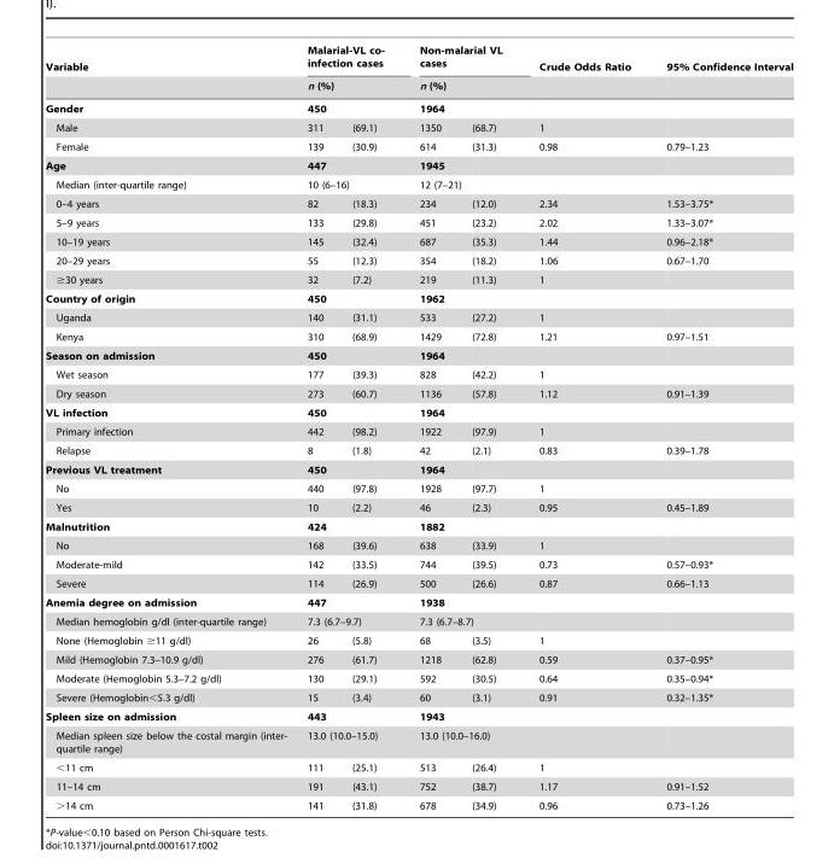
<table><thead><tr><td rowspan="3">Variable Gender</td><td rowspan="2" colspan="2">Malarial-VL co- infection cases n (%)</td><td rowspan="2" colspan="2">Non-malarial VL cases n (%)</td><td rowspan="3">Crude Odds Ratio</td><td rowspan="3">95% Confidence Interval</td></tr><tr></tr><tr><td>450</td><td></td><td>1964</td><td></td></tr></thead><tbody><tr><td>Male</td><td>311</td><td>(69.1)</td><td>1350</td><td>(68.7)</td><td>1</td><td></td></tr><tr><td>Female</td><td>139</td><td>(30.9)</td><td>614</td><td>(31.3)</td><td>0.98</td><td>0.79–1.23</td></tr><tr><td>Age</td><td>447</td><td></td><td>1945</td><td></td><td></td><td></td></tr><tr><td>Median (inter-quartile range)</td><td colspan="2">10 (6–16)</td><td colspan="2">12 (7–21)</td><td></td><td></td></tr><tr><td>0–4 years</td><td>82</td><td>(18.3)</td><td>234</td><td>(12.0)</td><td>2.34</td><td>1.53–3.75*</td></tr><tr><td>5–9 years</td><td>133</td><td>(29.8)</td><td>451</td><td>(23.2)</td><td>2.02</td><td>1.33–3.07*</td></tr><tr><td>10–19 years</td><td>145</td><td>(32.4)</td><td>687</td><td>(35.3)</td><td>1.44</td><td>0.96–2.18*</td></tr><tr><td>20–29 years</td><td>55</td><td>(12.3)</td><td>354</td><td>(18.2)</td><td>1.06</td><td>0.67–1.70</td></tr><tr><td>≥30 years</td><td>32</td><td>(7.2)</td><td>219</td><td>(11.3)</td><td>1</td><td></td></tr><tr><td>Country of origin</td><td>450</td><td></td><td>1962</td><td></td><td></td><td></td></tr><tr><td>Uganda</td><td>140</td><td>(31.1)</td><td>533</td><td>(27.2)</td><td>1</td><td></td></tr><tr><td>Kenya</td><td>310</td><td>(68.9)</td><td>1429</td><td>(72.8)</td><td>1.21</td><td>0.97–1.51</td></tr><tr><td>Season on admission</td><td>450</td><td></td><td>1964</td><td></td><td></td><td></td></tr><tr><td>Wet season</td><td>177</td><td>(39.3)</td><td>828</td><td>(42.2)</td><td>1</td><td></td></tr><tr><td>Dry season</td><td>273</td><td>(60.7)</td><td>1136</td><td>(57.8)</td><td>1.12</td><td>0.91–1.39</td></tr><tr><td>VL infection</td><td>450</td><td></td><td>1964</td><td></td><td></td><td></td></tr><tr><td>Primary infection</td><td>442</td><td>(98.2)</td><td>1922</td><td>(97.9)</td><td>1</td><td></td></tr><tr><td>Relapse</td><td>8</td><td>(1.8)</td><td>42</td><td>(2.1)</td><td>0.83</td><td>0.39–1.78</td></tr><tr><td>Previous VL treatment</td><td>450</td><td></td><td>1964</td><td></td><td></td><td></td></tr><tr><td>No</td><td>440</td><td>(97.8)</td><td>1928</td><td>(97.7)</td><td>1</td><td></td></tr><tr><td>Yes</td><td>10</td><td>(2.2)</td><td>46</td><td>(2.3)</td><td>0.95</td><td>0.45–1.89</td></tr><tr><td>Malnutrition</td><td>424</td><td></td><td>1882</td><td></td><td></td><td></td></tr><tr><td>No</td><td>168</td><td>(39.6)</td><td>638</td><td>(33.9)</td><td>1</td><td></td></tr><tr><td>Moderate-mild</td><td>142</td><td>(33.5)</td><td>744</td><td>(39.5)</td><td>0.73</td><td>0.57–0.93*</td></tr><tr><td>Severe</td><td>114</td><td>(26.9)</td><td>500</td><td>(26.6)</td><td>0.87</td><td>0.66–1.13</td></tr><tr><td>Anemia degree on admission</td><td>447</td><td></td><td>1938</td><td></td><td></td><td></td></tr><tr><td>Median hemoglobin g/dl (inter-quartile range)</td><td colspan="2">7.3 (6.7–9.7)</td><td colspan="2">7.3 (6.7–8.7)</td><td></td><td></td></tr><tr><td>None (Hemoglobin ≥11 g/dl)</td><td>26</td><td>(5.8)</td><td>68</td><td>(3.5)</td><td>1</td><td></td></tr><tr><td>Mild (Hemoglobin 7.3–10.9 g/dl)</td><td>276</td><td>(61.7)</td><td>1218</td><td>(62.8)</td><td>0.59</td><td>0.37–0.95*</td></tr><tr><td>Moderate (Hemoglobin 5.3–7.2 g/dl)</td><td>130</td><td>(29.1)</td><td>592</td><td>(30.5)</td><td>0.64</td><td>0.35–0.94*</td></tr><tr><td>Severe (Hemoglobin&lt;5.3 g/dl)</td><td>15</td><td>(3.4)</td><td>60</td><td>(3.1)</td><td>0.91</td><td>0.32–1.35*</td></tr><tr><td>Spleen size on admission</td><td>443</td><td></td><td>1943</td><td></td><td></td><td></td></tr><tr><td>Median spleen size below the costal margin (inter- quartile range)</td><td colspan="2">13.0 (10.0–15.0)</td><td colspan="2">13.0 (10.0–16.0)</td><td></td><td></td></tr><tr><td>&lt;11 cm</td><td>111</td><td>(25.1)</td><td>513</td><td>(26.4)</td><td>1</td><td></td></tr><tr><td>11–14 cm</td><td>191</td><td>(43.1)</td><td>752</td><td>(38.7)</td><td>1.17</td><td>0.91–1.52</td></tr><tr><td>&gt;14 cm</td><td>141</td><td>(31.8)</td><td>678</td><td>(34.9)</td><td>0.96</td><td>0.73–1.26</td></tr></tbody></table>